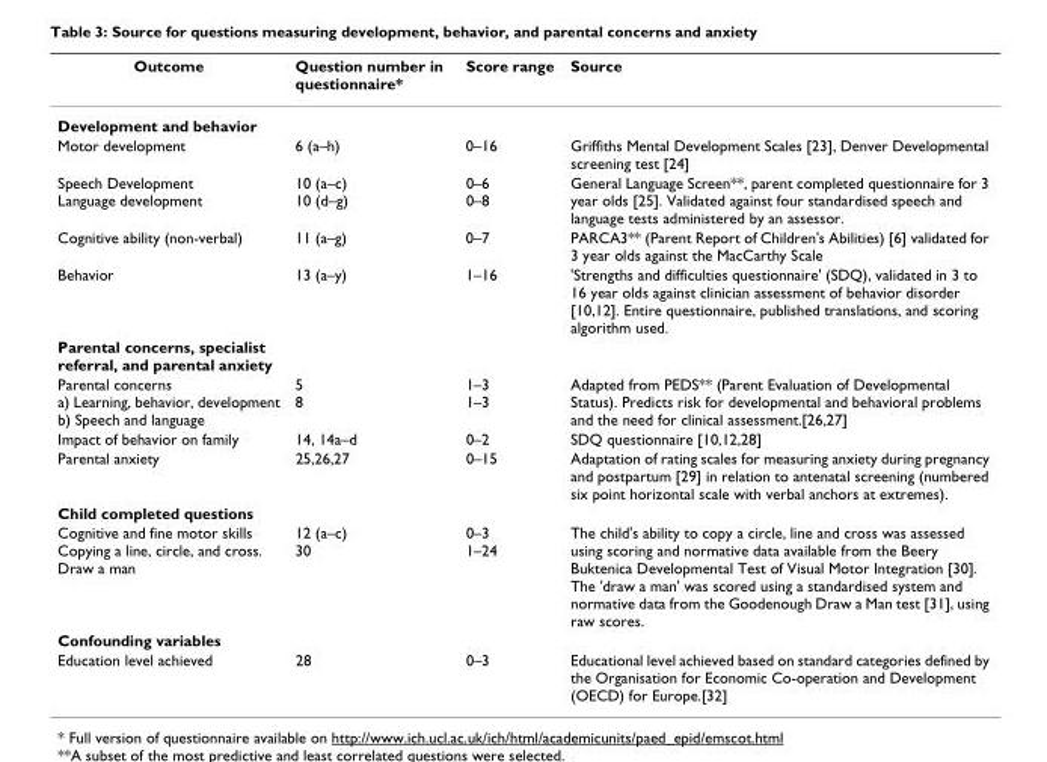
<table><thead><tr><td>Outcome</td><td>Question number in questionnaire*</td><td>Score range</td><td>Source</td></tr></thead><tbody><tr><td colspan="4">Development and behavior</td></tr><tr><td>Motor development</td><td>6 (a–h)</td><td>0–16</td><td>Griffiths Mental Development Scales [23], Denver Developmental screening test [24]</td></tr><tr><td>Speech Development Language development</td><td>10 (a–c) 10 (d–g)</td><td>0–6 0–8</td><td>General Language Screen**, parent completed questionnaire for 3 year olds [25]. Validated against four standardised speech and language tests administered by an assessor.</td></tr><tr><td>Cognitive ability (non-verbal)</td><td>11 (a–g)</td><td>0–7</td><td>PARCA3** (Parent Report of Children&#x27;s Abilities) [6] validated for 3 year olds against the MacCarthy Scale</td></tr><tr><td>Behavior</td><td>13 (a–y)</td><td>1–16</td><td>&#x27;Strengths and difficulties questionnaire&#x27; (SDQ), validated in 3 to 16 year olds against clinician assessment of behavior disorder [10,12]. Entire questionnaire, published translations, and scoring algorithm used.</td></tr><tr><td colspan="4">Parental concerns, specialist referral, and parental anxiety</td></tr><tr><td>Parental concerns a) Learning, behavior, development b) Speech and language</td><td>5 8</td><td>1–3 1–3</td><td>Adapted from PEDS** (Parent Evaluation of Developmental Status). Predicts risk for developmental and behavioral problems and the need for clinical assessment.[26,27]</td></tr><tr><td>Impact of behavior on family</td><td>14, 14a–d</td><td>0–2</td><td>SDQ questionnaire [10,12,28]</td></tr><tr><td>Parental anxiety</td><td>25,26,27</td><td>0–15</td><td>Adaptation of rating scales for measuring anxiety during pregnancy and postpartum [29] in relation to antenatal screening (numbered six point horizontal scale with verbal anchors at extremes).</td></tr><tr><td colspan="4">Child completed questions</td></tr><tr><td>Cognitive and fine motor skills Copying a line, circle, and cross. Draw a man</td><td>12 (a–c) 30</td><td>0–3 1–24</td><td>The child&#x27;s ability to copy a circle, line and cross was assessed using scoring and normative data available from the Beery Buktenica Developmental Test of Visual Motor Integration [30]. The &#x27;draw a man&#x27; was scored using a standardised system and normative data from the Goodenough Draw a Man test [31], using raw scores.</td></tr><tr><td colspan="4">Confounding variables</td></tr><tr><td>Education level achieved</td><td>28</td><td>0–3</td><td>Educational level achieved based on standard categories defined by the Organisation for Economic Co-operation and Development (OECD) for Europe.[32]</td></tr></tbody></table>